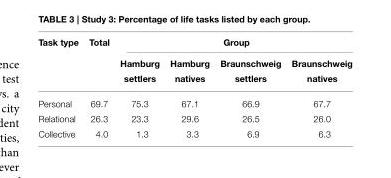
<table><thead><tr><td rowspan="2">Task type</td><td rowspan="2">Total</td><td colspan="4">Group</td></tr><tr><td>Hamburg settlers</td><td>Hamburg natives</td><td>Braunschweig settlers</td><td>Braunschweig natives</td></tr></thead><tbody><tr><td>Personal</td><td>69.7</td><td>75.3</td><td>67.1</td><td>66.9</td><td>67.7</td></tr><tr><td>Relational</td><td>26.3</td><td>23.3</td><td>29.6</td><td>26.5</td><td>26.0</td></tr><tr><td>Collective</td><td>4.0</td><td>1.3</td><td>3.3</td><td>6.9</td><td>6.3</td></tr></tbody></table>